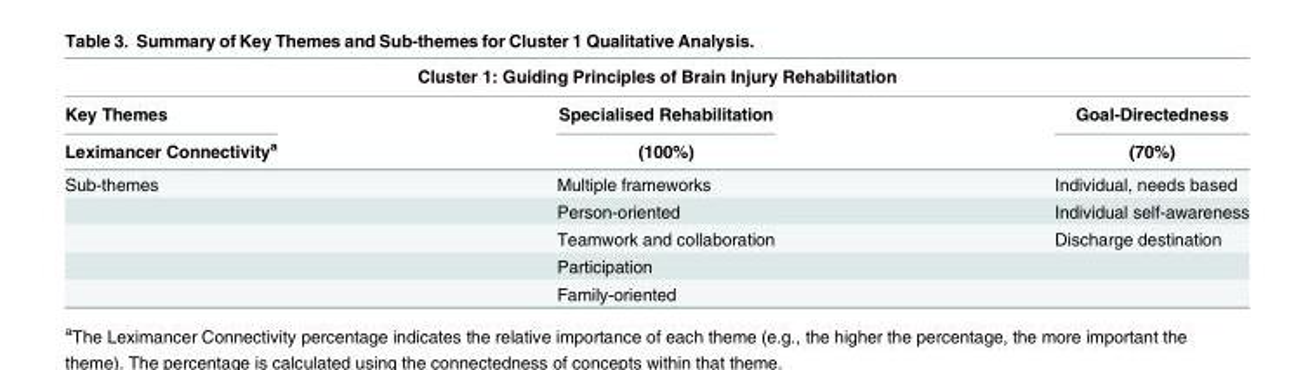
<table><thead><tr><td colspan="3">Cluster 1: Guiding Principles of Brain Injury Rehabilitation</td></tr><tr><td rowspan="2">Key Themes Leximancer Connectivity<sup>a</sup></td><td rowspan="2">Specialised Rehabilitation (100%)</td><td rowspan="2">Goal-Directedness (70%)</td></tr><tr></tr></thead><tbody><tr><td rowspan="5">Sub-themes</td><td>Multiple frameworks</td><td>Individual, needs based</td></tr><tr><td>Person-oriented</td><td>Individual self-awareness</td></tr><tr><td>Teamwork and collaboration</td><td>Discharge destination</td></tr><tr><td>Participation</td><td></td></tr><tr><td>Family-oriented</td><td></td></tr></tbody></table>